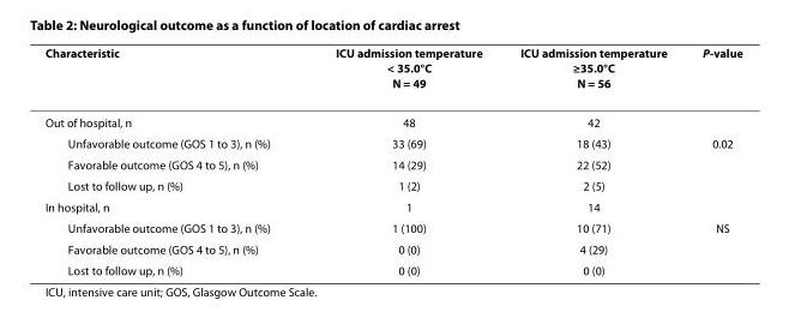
<table><thead><tr><td>Characteristic</td><td>ICU admission temperature &lt; 35.0°C N = 49</td><td>ICU admission temperature ≥35.0°C N = 56</td><td>P-value</td></tr></thead><tbody><tr><td>Out of hospital, n</td><td>48</td><td>42</td><td></td></tr><tr><td>Unfavorable outcome (GOS 1 to 3), n (%)</td><td>33 (69)</td><td>18 (43)</td><td>0.02</td></tr><tr><td>Favorable outcome (GOS 4 to 5), n (%)</td><td>14 (29)</td><td>22 (52)</td><td></td></tr><tr><td>Lost to follow up, n (%)</td><td>1 (2)</td><td>2 (5)</td><td></td></tr><tr><td>In hospital, n</td><td>1</td><td>14</td><td></td></tr><tr><td>Unfavorable outcome (GOS 1 to 3), n (%)</td><td>1 (100)</td><td>10 (71)</td><td>NS</td></tr><tr><td>Favorable outcome (GOS 4 to 5), n (%)</td><td>0 (0)</td><td>4 (29)</td><td></td></tr><tr><td>Lost to follow up, n (%)</td><td>0 (0)</td><td>0 (0)</td><td></td></tr></tbody></table>